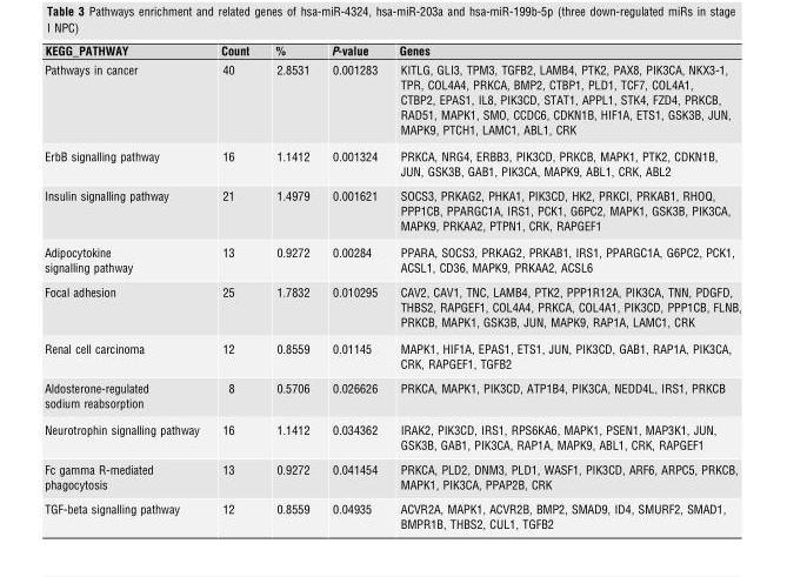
<table><thead><tr><td>KEGG_PATHWAY</td><td>Count</td><td>%</td><td>P-value</td><td>Genes</td></tr></thead><tbody><tr><td>Pathways in cancer</td><td>40</td><td>2.8531</td><td>0.001283</td><td>KITLG, GLI3, TPM3, TGFB2, LAMB4, PTK2, PAX8, PIK3CA, NKX3-1, TPR, COL4A4, PRKCA, BMP2, CTBP1, PLD1, TCF7, COL4A1, CTBP2, EPAS1, IL8, PIK3CD, STAT1, APPL1, STK4, FZD4, PRKCB, RAD51, MAPK1, SMO, CCDC6, CDKN1B, HIF1A, ETS1, GSK3B, JUN, MAPK9, PTCH1, LAMC1, ABL1, CRK</td></tr><tr><td>ErbB signalling pathway</td><td>16</td><td>1.1412</td><td>0.001324</td><td>PRKCA, NRG4, ERBB3, PIK3CD, PRKCB, MAPK1, PTK2, CDKN1B, JUN, GSK3B, GAB1, PIK3CA, MAPK9, ABL1, CRK, ABL2</td></tr><tr><td>Insulin signalling pathway</td><td>21</td><td>1.4979</td><td>0.001621</td><td>SOCS3, PRKAG2, PHKA1, PIK3CD, HK2, PRKCI, PRKAB1, RHOQ, PPP1CB, PPARGC1A, IRS1, PCK1, G6PC2, MAPK1, GSK3B, PIK3CA, MAPK9, PRKAA2, PTPN1, CRK, RAPGEF1</td></tr><tr><td>Adipocytokine signalling pathway</td><td>13</td><td>0.9272</td><td>0.00284</td><td>PPARA, SOCS3, PRKAG2, PRKAB1, IRS1, PPARGC1A, G6PC2, PCK1, ACSL1, CD36, MAPK9, PRKAA2, ACSL6</td></tr><tr><td>Focal adhesion</td><td>25</td><td>1.7832</td><td>0.010295</td><td>CAV2, CAV1, TNC, LAMB4, PTK2, PPP1R12A, PIK3CA, TNN, PDGFD, THBS2, RAPGEF1, COL4A4, PRKCA, COL4A1, PIK3CD, PPP1CB, FLNB, PRKCB, MAPK1, GSK3B, JUN, MAPK9, RAP1A, LAMC1, CRK</td></tr><tr><td>Renal cell carcinoma</td><td>12</td><td>0.8559</td><td>0.01145</td><td>MAPK1, HIF1A, EPAS1, ETS1, JUN, PIK3CD, GAB1, RAP1A, PIK3CA, CRK, RAPGEF1, TGFB2</td></tr><tr><td>Aldosterone-regulated sodium reabsorption</td><td>8</td><td>0.5706</td><td>0.026626</td><td>PRKCA, MAPK1, PIK3CD, ATP1B4, PIK3CA, NEDD4L, IRS1, PRKCB</td></tr><tr><td>Neurotrophin signalling pathway</td><td>16</td><td>1.1412</td><td>0.034362</td><td>IRAK2, PIK3CD, IRS1, RPS6KA6, MAPK1, PSEN1, MAP3K1, JUN, GSK3B, GAB1, PIK3CA, RAP1A, MAPK9, ABL1, CRK, RAPGEF1</td></tr><tr><td>Fc gamma R-mediated phagocytosis</td><td>13</td><td>0.9272</td><td>0.041454</td><td>PRKCA, PLD2, DNM3, PLD1, WASF1, PIK3CD, ARF6, ARPC5, PRKCB, MAPK1, PIK3CA, PPAP2B, CRK</td></tr><tr><td>TGF-beta signalling pathway</td><td>12</td><td>0.8559</td><td>0.04935</td><td>ACVR2A, MAPK1, ACVR2B, BMP2, SMAD9, ID4, SMURF2, SMAD1, BMPR1B, THBS2, CUL1, TGFB2</td></tr></tbody></table>